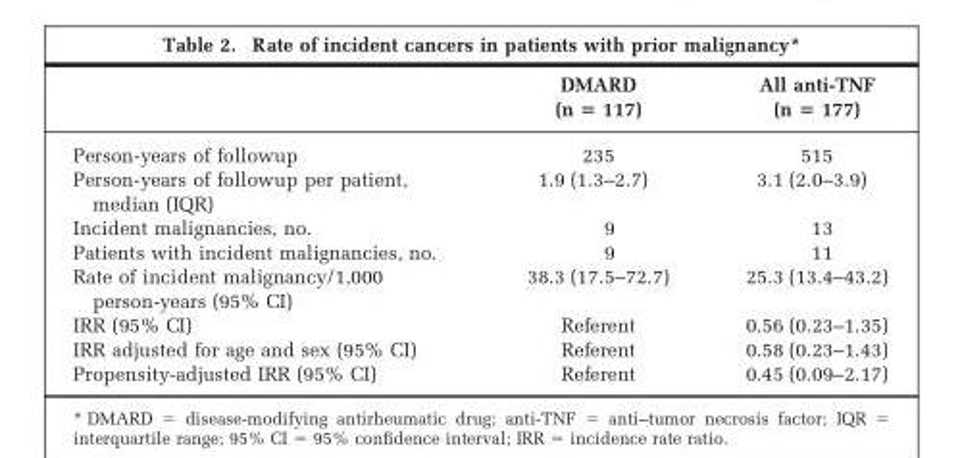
<table><thead><tr><td></td><td>DMARD (n = 117)</td><td>All anti-TNF (n = 177)</td></tr></thead><tbody><tr><td>Person-years of followup</td><td>235</td><td>515</td></tr><tr><td>Person-years of followup per patient, median (IQR)</td><td>1.9 (1.3–2.7)</td><td>3.1 (2.0–3.9)</td></tr><tr><td>Incident malignancies, no.</td><td>9</td><td>13</td></tr><tr><td>Patients with incident malignancies, no.</td><td>9</td><td>11</td></tr><tr><td>Rate of incident malignancy/1,000 person-years (95% CI)</td><td>38.3 (17.5–72.7)</td><td>25.3 (13.4–43.2)</td></tr><tr><td>IRR (95% CI)</td><td>Referent</td><td>0.56 (0.23–1.35)</td></tr><tr><td>IRR adjusted for age and sex (95% CI)</td><td>Referent</td><td>0.58 (0.23–1.43)</td></tr><tr><td>Propensity-adjusted IRR (95% CI)</td><td>Referent</td><td>0.45 (0.09–2.17)</td></tr></tbody></table>